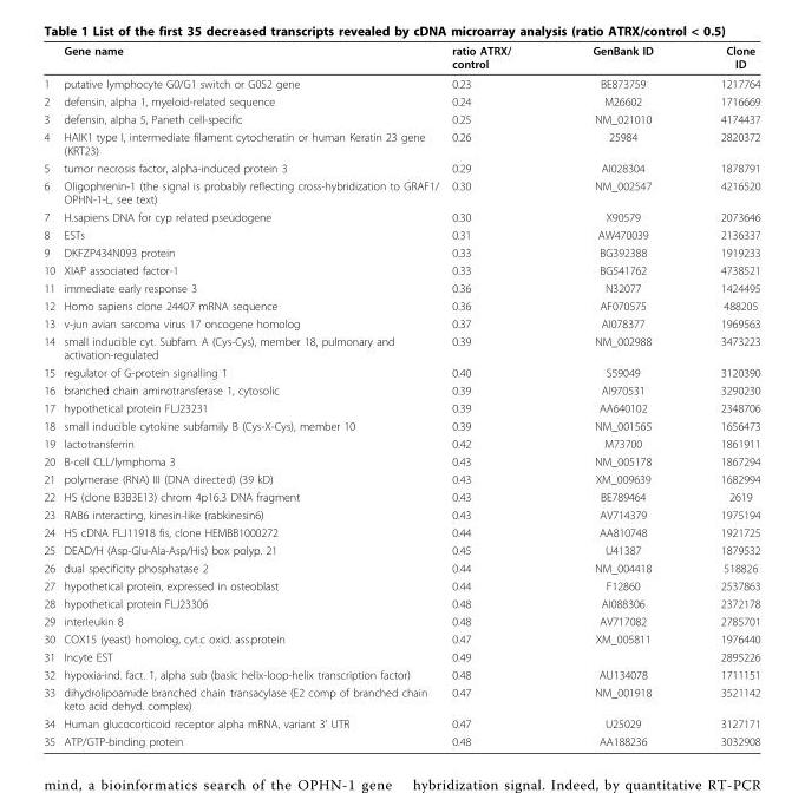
<table><thead><tr><td></td><td>Gene name</td><td>ratio ATRX/ control</td><td>GenBank ID</td><td>Clone ID</td></tr></thead><tbody><tr><td>1</td><td>putative lymphocyte G0/G1 switch or G0S2 gene</td><td>0.23</td><td>BE873759</td><td>1217764</td></tr><tr><td>2</td><td>defensin, alpha 1, myeloid-related sequence</td><td>0.24</td><td>M26602</td><td>1716669</td></tr><tr><td>3</td><td>defensin, alpha 5, Paneth cell-specific</td><td>0.25</td><td>NM_021010</td><td>4174437</td></tr><tr><td>4</td><td>HAIK1 type I, intermediate filament cytocheratin or human Keratin 23 gene (KRT23)</td><td>0.26</td><td>25984</td><td>2820372</td></tr><tr><td>5</td><td>tumor necrosis factor, alpha-induced protein 3</td><td>0.29</td><td>AI028304</td><td>1878791</td></tr><tr><td>6</td><td>Oligophrenin-1 (the signal is probably reflecting cross-hybridization to GRAF1/ OPHN-1-L, see text)</td><td>0.30</td><td>NM_002547</td><td>4216520</td></tr><tr><td>7</td><td>H.sapiens DNA for cyp related pseudogene</td><td>0.30</td><td>X90579</td><td>2073646</td></tr><tr><td>8</td><td>ESTs</td><td>0.31</td><td>AW470039</td><td>2136337</td></tr><tr><td>9</td><td>DKFZP434N093 protein</td><td>0.33</td><td>BG392388</td><td>1919233</td></tr><tr><td>10</td><td>XIAP associated factor-1</td><td>0.33</td><td>BG541762</td><td>4738521</td></tr><tr><td>11</td><td>immediate early response 3</td><td>0.36</td><td>N32077</td><td>1424495</td></tr><tr><td>12</td><td>Homo sapiens clone 24407 mRNA sequence</td><td>0.36</td><td>AF070575</td><td>488205</td></tr><tr><td>13</td><td>v-jun avian sarcoma virus 17 oncogene homolog</td><td>0.37</td><td>AI078377</td><td>1969563</td></tr><tr><td>14</td><td>small inducible cyt. Subfam. A (Cys-Cys), member 18, pulmonary and activation-regulated</td><td>0.39</td><td>NM_002988</td><td>3473223</td></tr><tr><td>15</td><td>regulator of G-protein signalling 1</td><td>0.40</td><td>S59049</td><td>3120390</td></tr><tr><td>16</td><td>branched chain aminotransferase 1, cytosolic</td><td>0.39</td><td>AI970531</td><td>3290230</td></tr><tr><td>17</td><td>hypothetical protein FLJ23231</td><td>0.39</td><td>AA640102</td><td>2348706</td></tr><tr><td>18</td><td>small inducible cytokine subfamily B (Cys-X-Cys), member 10</td><td>0.39</td><td>NM_001565</td><td>1656473</td></tr><tr><td>19</td><td>lactotransferrin</td><td>0.42</td><td>M73700</td><td>1861911</td></tr><tr><td>20</td><td>B-cell CLL/lymphoma 3</td><td>0.43</td><td>NM_005178</td><td>1867294</td></tr><tr><td>21</td><td>polymerase (RNA) III (DNA directed) (39 kD)</td><td>0.43</td><td>XM_009639</td><td>1682994</td></tr><tr><td>22</td><td>HS (clone B3B3E13) chrom 4p16.3 DNA fragment</td><td>0.43</td><td>BE789464</td><td>2619</td></tr><tr><td>23</td><td>RAB6 interacting, kinesin-like (rabkinesin6)</td><td>0.43</td><td>AV714379</td><td>1975194</td></tr><tr><td>24</td><td>HS cDNA FLJ11918 fis, clone HEMBB1000272</td><td>0.44</td><td>AA810748</td><td>1921725</td></tr><tr><td>25</td><td>DEAD/H (Asp-Glu-Ala-Asp/His) box polyp. 21</td><td>0.45</td><td>U41387</td><td>1879532</td></tr><tr><td>26</td><td>dual specificity phosphatase 2</td><td>0.44</td><td>NM_004418</td><td>518826</td></tr><tr><td>27</td><td>hypothetical protein, expressed in osteoblast</td><td>0.44</td><td>F12860</td><td>2537863</td></tr><tr><td>28</td><td>hypothetical protein FLJ23306</td><td>0.48</td><td>AI088306</td><td>2372178</td></tr><tr><td>29</td><td>interleukin 8</td><td>0.48</td><td>AV717082</td><td>2785701</td></tr><tr><td>30</td><td>COX15 (yeast) homolog, cyt.c oxid. ass.protein</td><td>0.47</td><td>XM_005811</td><td>1976440</td></tr><tr><td>31</td><td>Incyte EST</td><td>0.49</td><td></td><td>2895226</td></tr><tr><td>32</td><td>hypoxia-ind. fact. 1, alpha sub (basic helix-loop-helix transcription factor)</td><td>0.48</td><td>AU134078</td><td>1711151</td></tr><tr><td>33</td><td>dihydrolipoamide branched chain transacylase (E2 comp of branched chain keto acid dehyd. complex)</td><td>0.47</td><td>NM_001918</td><td>3521142</td></tr><tr><td>34</td><td>Human glucocorticoid receptor alpha mRNA, variant 3’ UTR</td><td>0.47</td><td>U25029</td><td>3127171</td></tr><tr><td>35</td><td>ATP/GTP-binding protein</td><td>0.48</td><td>AA188236</td><td>3032908</td></tr></tbody></table>